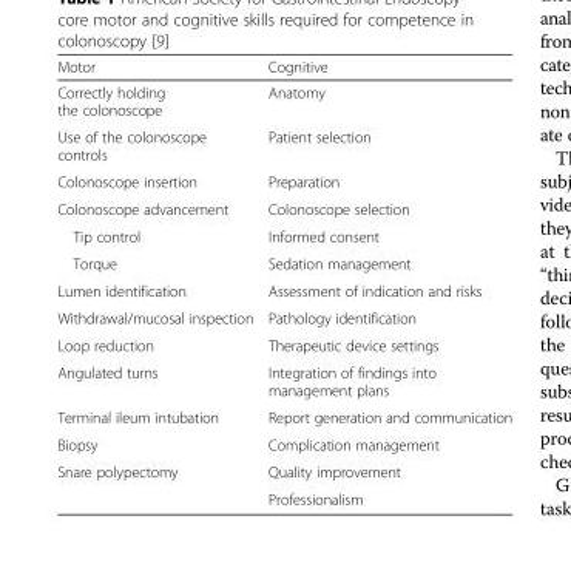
<table><thead><tr><td>Motor</td><td>Cognitive</td></tr></thead><tbody><tr><td>Correctly holding the colonoscope</td><td>Anatomy</td></tr><tr><td>Use of the colonoscope controls</td><td>Patient selection</td></tr><tr><td>Colonoscope insertion</td><td>Preparation</td></tr><tr><td>Colonoscope advancement</td><td>Colonoscope selection</td></tr><tr><td>Tip control</td><td>Informed consent</td></tr><tr><td>Torque</td><td>Sedation management</td></tr><tr><td>Lumen identification</td><td>Assessment of indication and risks</td></tr><tr><td>Withdrawal/mucosal inspection</td><td>Pathology identification</td></tr><tr><td>Loop reduction</td><td>Therapeutic device settings</td></tr><tr><td>Angulated turns</td><td>Integration of findings into management plans</td></tr><tr><td>Terminal ileum intubation</td><td>Report generation and communication</td></tr><tr><td>Biopsy</td><td>Complication management</td></tr><tr><td rowspan="2">Snare polypectomy</td><td>Quality improvement</td></tr><tr><td>Professionalism</td></tr></tbody></table>